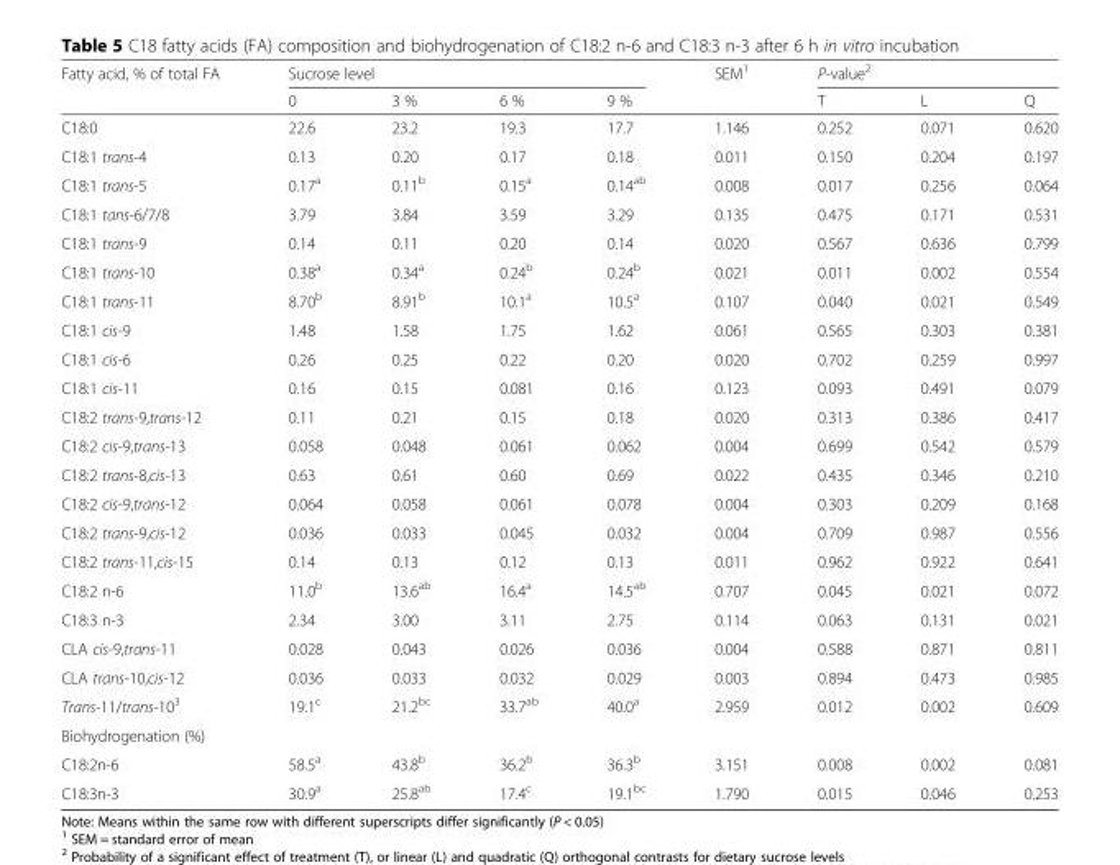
<table><thead><tr><td rowspan="2">Fatty acid, % of total FA</td><td colspan="4">Sucrose level</td><td rowspan="2">SEM<sup>1</sup></td><td colspan="3">P-value<sup>2</sup></td></tr><tr><td>0</td><td>3 %</td><td>6 %</td><td>9 %</td><td>T</td><td>L</td><td>Q</td></tr></thead><tbody><tr><td>C18:0</td><td>22.6</td><td>23.2</td><td>19.3</td><td>17.7</td><td>1.146</td><td>0.252</td><td>0.071</td><td>0.620</td></tr><tr><td>C18:1 trans-4</td><td>0.13</td><td>0.20</td><td>0.17</td><td>0.18</td><td>0.011</td><td>0.150</td><td>0.204</td><td>0.197</td></tr><tr><td>C18:1 trans-5</td><td>0.17<sup>a</sup></td><td>0.11<sup>b</sup></td><td>0.15<sup>a</sup></td><td>0.14<sup>ab</sup></td><td>0.008</td><td>0.017</td><td>0.256</td><td>0.064</td></tr><tr><td>C18:1 tans-6/7/8</td><td>3.79</td><td>3.84</td><td>3.59</td><td>3.29</td><td>0.135</td><td>0.475</td><td>0.171</td><td>0.531</td></tr><tr><td>C18:1 trans-9</td><td>0.14</td><td>0.11</td><td>0.20</td><td>0.14</td><td>0.020</td><td>0.567</td><td>0.636</td><td>0.799</td></tr><tr><td>C18:1 trans-10</td><td>0.38<sup>a</sup></td><td>0.34<sup>a</sup></td><td>0.24<sup>b</sup></td><td>0.24<sup>b</sup></td><td>0.021</td><td>0.011</td><td>0.002</td><td>0.554</td></tr><tr><td>C18:1 trans-11</td><td>8.70<sup>b</sup></td><td>8.91<sup>b</sup></td><td>10.1<sup>a</sup></td><td>10.5<sup>a</sup></td><td>0.107</td><td>0.040</td><td>0.021</td><td>0.549</td></tr><tr><td>C18:1 cis-9</td><td>1.48</td><td>1.58</td><td>1.75</td><td>1.62</td><td>0.061</td><td>0.565</td><td>0.303</td><td>0.381</td></tr><tr><td>C18:1 cis-6</td><td>0.26</td><td>0.25</td><td>0.22</td><td>0.20</td><td>0.020</td><td>0.702</td><td>0.259</td><td>0.997</td></tr><tr><td>C18:1 cis-11</td><td>0.16</td><td>0.15</td><td>0.081</td><td>0.16</td><td>0.123</td><td>0.093</td><td>0.491</td><td>0.079</td></tr><tr><td>C18:2 trans-9,trans-12</td><td>0.11</td><td>0.21</td><td>0.15</td><td>0.18</td><td>0.020</td><td>0.313</td><td>0.386</td><td>0.417</td></tr><tr><td>C18:2 cis-9,trans-13</td><td>0.058</td><td>0.048</td><td>0.061</td><td>0.062</td><td>0.004</td><td>0.699</td><td>0.542</td><td>0.579</td></tr><tr><td>C18:2 trans-8,cis-13</td><td>0.63</td><td>0.61</td><td>0.60</td><td>0.69</td><td>0.022</td><td>0.435</td><td>0.346</td><td>0.210</td></tr><tr><td>C18:2 cis-9,trans-12</td><td>0.064</td><td>0.058</td><td>0.061</td><td>0.078</td><td>0.004</td><td>0.303</td><td>0.209</td><td>0.168</td></tr><tr><td>C18:2 trans-9,cis-12</td><td>0.036</td><td>0.033</td><td>0.045</td><td>0.032</td><td>0.004</td><td>0.709</td><td>0.987</td><td>0.556</td></tr><tr><td>C18:2 trans-11,cis-15</td><td>0.14</td><td>0.13</td><td>0.12</td><td>0.13</td><td>0.011</td><td>0.962</td><td>0.922</td><td>0.641</td></tr><tr><td>C18:2 n-6</td><td>11.0<sup>b</sup></td><td>13.6<sup>ab</sup></td><td>16.4<sup>a</sup></td><td>14.5<sup>ab</sup></td><td>0.707</td><td>0.045</td><td>0.021</td><td>0.072</td></tr><tr><td>C18:3 n-3</td><td>2.34</td><td>3.00</td><td>3.11</td><td>2.75</td><td>0.114</td><td>0.063</td><td>0.131</td><td>0.021</td></tr><tr><td>CLA cis-9,trans-11</td><td>0.028</td><td>0.043</td><td>0.026</td><td>0.036</td><td>0.004</td><td>0.588</td><td>0.871</td><td>0.811</td></tr><tr><td>CLA trans-10,cis-12</td><td>0.036</td><td>0.033</td><td>0.032</td><td>0.029</td><td>0.003</td><td>0.894</td><td>0.473</td><td>0.985</td></tr><tr><td>Trans-11/trans-10<sup>3</sup></td><td>19.1<sup>c</sup></td><td>21.2<sup>bc</sup></td><td>33.7<sup>ab</sup></td><td>40.0<sup>a</sup></td><td>2.959</td><td>0.012</td><td>0.002</td><td>0.609</td></tr><tr><td colspan="9">Biohydrogenation (%)</td></tr><tr><td>C18:2n-6</td><td>58.5<sup>a</sup></td><td>43.8<sup>b</sup></td><td>36.2<sup>b</sup></td><td>36.3<sup>b</sup></td><td>3.151</td><td>0.008</td><td>0.002</td><td>0.081</td></tr><tr><td>C18:3n-3</td><td>30.9<sup>a</sup></td><td>25.8<sup>ab</sup></td><td>17.4<sup>c</sup></td><td>19.1<sup>bc</sup></td><td>1.790</td><td>0.015</td><td>0.046</td><td>0.253</td></tr></tbody></table>